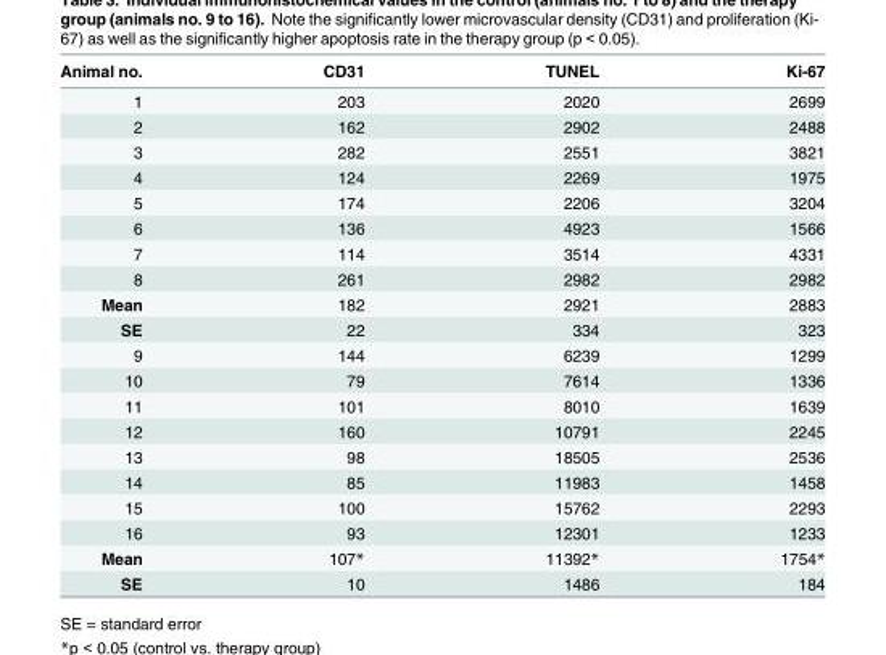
<table><thead><tr><td>Animal no.</td><td>CD31</td><td>TUNEL</td><td>Ki-67</td></tr></thead><tbody><tr><td>1</td><td>203</td><td>2020</td><td>2699</td></tr><tr><td>2</td><td>162</td><td>2902</td><td>2488</td></tr><tr><td>3</td><td>282</td><td>2551</td><td>3821</td></tr><tr><td>4</td><td>124</td><td>2269</td><td>1975</td></tr><tr><td>5</td><td>174</td><td>2206</td><td>3204</td></tr><tr><td>6</td><td>136</td><td>4923</td><td>1566</td></tr><tr><td>7</td><td>114</td><td>3514</td><td>4331</td></tr><tr><td>8</td><td>261</td><td>2982</td><td>2982</td></tr><tr><td>Mean</td><td>182</td><td>2921</td><td>2883</td></tr><tr><td>SE</td><td>22</td><td>334</td><td>323</td></tr><tr><td>9</td><td>144</td><td>6239</td><td>1299</td></tr><tr><td>10</td><td>79</td><td>7614</td><td>1336</td></tr><tr><td>11</td><td>101</td><td>8010</td><td>1639</td></tr><tr><td>12</td><td>160</td><td>10791</td><td>2245</td></tr><tr><td>13</td><td>98</td><td>18505</td><td>2536</td></tr><tr><td>14</td><td>85</td><td>11983</td><td>1458</td></tr><tr><td>15</td><td>100</td><td>15762</td><td>2293</td></tr><tr><td>16</td><td>93</td><td>12301</td><td>1233</td></tr><tr><td>Mean</td><td>107*</td><td>11392*</td><td>1754*</td></tr><tr><td>SE</td><td>10</td><td>1486</td><td>184</td></tr></tbody></table>